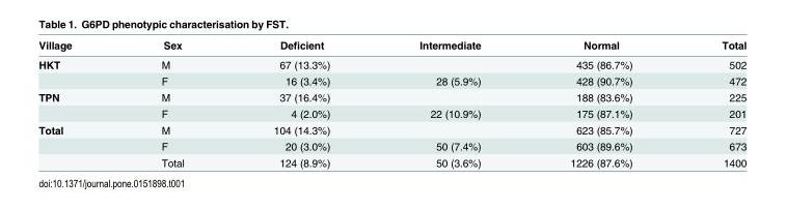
<table><thead><tr><td>Village</td><td>Sex</td><td>Deficient</td><td>Intermediate</td><td>Normal</td><td>Total</td></tr></thead><tbody><tr><td rowspan="2">HKT</td><td>M</td><td>67 (13.3%)</td><td></td><td>435 (86.7%)</td><td>502</td></tr><tr><td>F</td><td>16 (3.4%)</td><td>28 (5.9%)</td><td>428 (90.7%)</td><td>472</td></tr><tr><td rowspan="2">TPN</td><td>M</td><td>37 (16.4%)</td><td></td><td>188 (83.6%)</td><td>225</td></tr><tr><td>F</td><td>4 (2.0%)</td><td>22 (10.9%)</td><td>175 (87.1%)</td><td>201</td></tr><tr><td rowspan="3">Total</td><td>M</td><td>104 (14.3%)</td><td></td><td>623 (85.7%)</td><td>727</td></tr><tr><td>F</td><td>20 (3.0%)</td><td>50 (7.4%)</td><td>603 (89.6%)</td><td>673</td></tr><tr><td>Total</td><td>124 (8.9%)</td><td>50 (3.6%)</td><td>1226 (87.6%)</td><td>1400</td></tr></tbody></table>